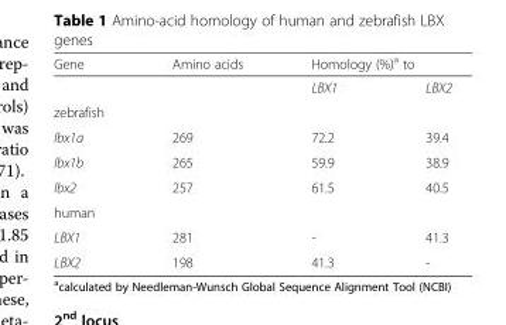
<table><thead><tr><td rowspan="2">Gene</td><td rowspan="2">Amino acids</td><td colspan="2">Homology (%)<sup>a</sup> to</td></tr><tr><td>LBX1</td><td>LBX2</td></tr></thead><tbody><tr><td colspan="4">zebrafish</td></tr><tr><td>lbx1a</td><td>269</td><td>72.2</td><td>39.4</td></tr><tr><td>lbx1b</td><td>265</td><td>59.9</td><td>38.9</td></tr><tr><td>lbx2</td><td>257</td><td>61.5</td><td>40.5</td></tr><tr><td colspan="4">human</td></tr><tr><td>LBX1</td><td>281</td><td>-</td><td>41.3</td></tr><tr><td>LBX2</td><td>198</td><td>41.3</td><td>-</td></tr></tbody></table>